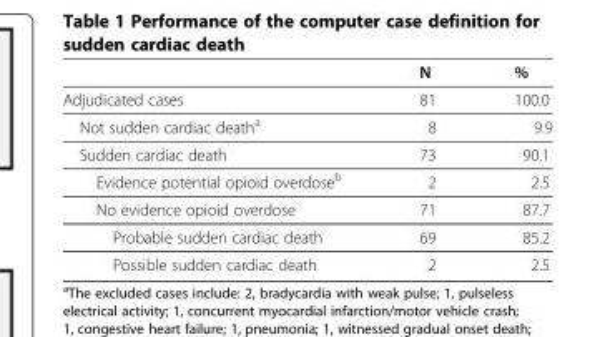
<table><thead><tr><td></td><td>N</td><td>%</td></tr></thead><tbody><tr><td>Adjudicated cases</td><td>81</td><td>100.0</td></tr><tr><td>Not sudden cardiac death<sup>a</sup></td><td>8</td><td>9.9</td></tr><tr><td>Sudden cardiac death</td><td>73</td><td>90.1</td></tr><tr><td>Evidence potential opioid overdose<sup>b</sup></td><td>2</td><td>2.5</td></tr><tr><td>No evidence opioid overdose</td><td>71</td><td>87.7</td></tr><tr><td>Probable sudden cardiac death</td><td>69</td><td>85.2</td></tr><tr><td>Possible sudden cardiac death</td><td>2</td><td>2.5</td></tr></tbody></table>